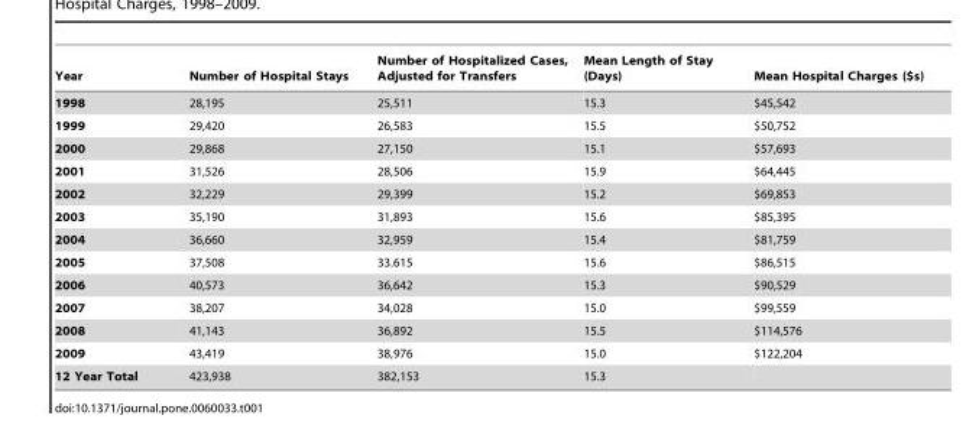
<table><thead><tr><td>Year</td><td>Number of Hospital Stays</td><td>Number of Hospitalized Cases, Adjusted for Transfers</td><td>Mean Length of Stay (Days)</td><td>Mean Hospital Charges ($s)</td></tr></thead><tbody><tr><td>1998</td><td>28,195</td><td>25,511</td><td>15.3</td><td>$45,542</td></tr><tr><td>1999</td><td>29,420</td><td>26,583</td><td>15.5</td><td>$50,752</td></tr><tr><td>2000</td><td>29,868</td><td>27,150</td><td>15.1</td><td>$57,693</td></tr><tr><td>2001</td><td>31,526</td><td>28,506</td><td>15.9</td><td>$64,445</td></tr><tr><td>2002</td><td>32,229</td><td>29,399</td><td>15.2</td><td>$69,853</td></tr><tr><td>2003</td><td>35,190</td><td>31,893</td><td>15.6</td><td>$85,395</td></tr><tr><td>2004</td><td>36,660</td><td>32,959</td><td>15.4</td><td>$81,759</td></tr><tr><td>2005</td><td>37,508</td><td>33.615</td><td>15.6</td><td>$86,515</td></tr><tr><td>2006</td><td>40,573</td><td>36,642</td><td>15.3</td><td>$90,529</td></tr><tr><td>2007</td><td>38,207</td><td>34,028</td><td>15.0</td><td>$99,559</td></tr><tr><td>2008</td><td>41,143</td><td>36,892</td><td>15.5</td><td>$114,576</td></tr><tr><td>2009</td><td>43,419</td><td>38,976</td><td>15.0</td><td>$122,204</td></tr><tr><td>12 Year Total</td><td>423,938</td><td>382,153</td><td>15.3</td><td></td></tr></tbody></table>